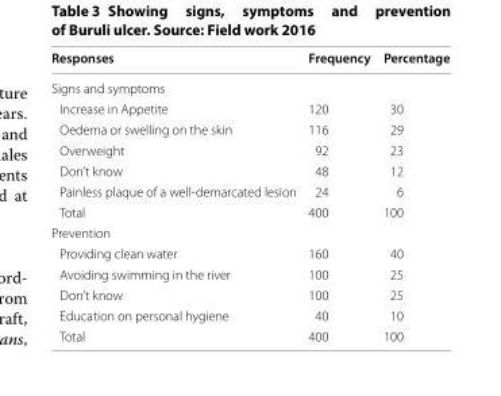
<table><thead><tr><td>Responses</td><td>Frequency</td><td>Percentage</td></tr></thead><tbody><tr><td colspan="3">Signs and symptoms</td></tr><tr><td>Increase in Appetite</td><td>120</td><td>30</td></tr><tr><td>Oedema or swelling on the skin</td><td>116</td><td>29</td></tr><tr><td>Overweight</td><td>92</td><td>23</td></tr><tr><td>Don’t know</td><td>48</td><td>12</td></tr><tr><td>Painless plaque of a well-demarcated lesion</td><td>24</td><td>6</td></tr><tr><td>Total</td><td>400</td><td>100</td></tr><tr><td colspan="3">Prevention</td></tr><tr><td>Providing clean water</td><td>160</td><td>40</td></tr><tr><td>Avoiding swimming in the river</td><td>100</td><td>25</td></tr><tr><td>Don’t know</td><td>100</td><td>25</td></tr><tr><td>Education on personal hygiene</td><td>40</td><td>10</td></tr><tr><td>Total</td><td>400</td><td>100</td></tr></tbody></table>